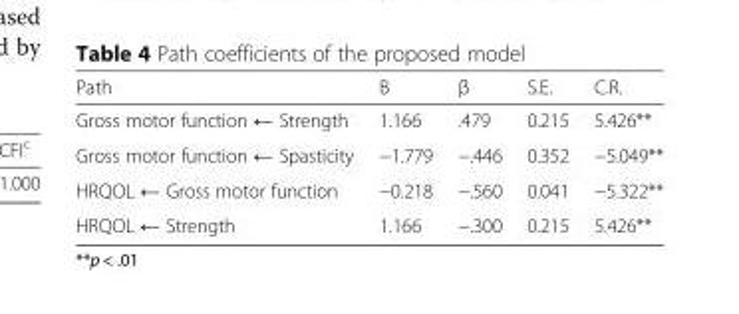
<table><thead><tr><td>Path</td><td>B</td><td>β</td><td>S.E.</td><td>C.R.</td></tr></thead><tbody><tr><td>Gross motor function ← Strength</td><td>1.166</td><td>.479</td><td>0.215</td><td>5.426**</td></tr><tr><td>Gross motor function ← Spasticity</td><td>−1.779</td><td>−.446</td><td>0.352</td><td>−5.049**</td></tr><tr><td>HRQOL ← Gross motor function</td><td>−0.218</td><td>−.560</td><td>0.041</td><td>−5.322**</td></tr><tr><td>HRQOL ← Strength</td><td>1.166</td><td>−.300</td><td>0.215</td><td>5.426**</td></tr></tbody></table>